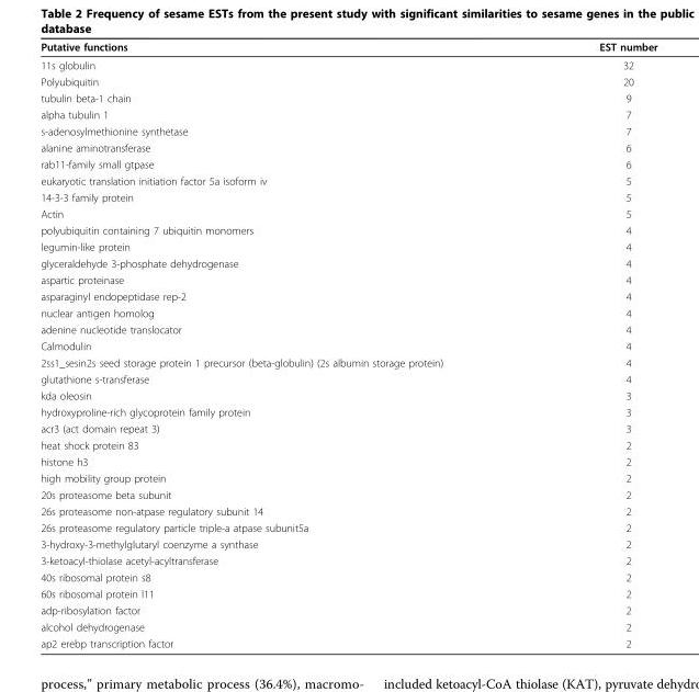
<table><thead><tr><td>Putative functions</td><td>EST number</td></tr></thead><tbody><tr><td>11s globulin</td><td>32</td></tr><tr><td>Polyubiquitin</td><td>20</td></tr><tr><td>tubulin beta-1 chain</td><td>9</td></tr><tr><td>alpha tubulin 1</td><td>7</td></tr><tr><td>s-adenosylmethionine synthetase</td><td>7</td></tr><tr><td>alanine aminotransferase</td><td>6</td></tr><tr><td>rab11-family small gtpase</td><td>6</td></tr><tr><td>eukaryotic translation initiation factor 5a isoform iv</td><td>5</td></tr><tr><td>14-3-3 family protein</td><td>5</td></tr><tr><td>Actin</td><td>5</td></tr><tr><td>polyubiquitin containing 7 ubiquitin monomers</td><td>4</td></tr><tr><td>legumin-like protein</td><td>4</td></tr><tr><td>glyceraldehyde 3-phosphate dehydrogenase</td><td>4</td></tr><tr><td>aspartic proteinase</td><td>4</td></tr><tr><td>asparaginyl endopeptidase rep-2</td><td>4</td></tr><tr><td>nuclear antigen homolog</td><td>4</td></tr><tr><td>adenine nucleotide translocator</td><td>4</td></tr><tr><td>Calmodulin</td><td>4</td></tr><tr><td>2ss1_sesin2s seed storage protein 1 precursor (beta-globulin) (2s albumin storage protein)</td><td>4</td></tr><tr><td>glutathione s-transferase</td><td>4</td></tr><tr><td>kda oleosin</td><td>3</td></tr><tr><td>hydroxyproline-rich glycoprotein family protein</td><td>3</td></tr><tr><td>acr3 (act domain repeat 3)</td><td>3</td></tr><tr><td>heat shock protein 83</td><td>2</td></tr><tr><td>histone h3</td><td>2</td></tr><tr><td>high mobility group protein</td><td>2</td></tr><tr><td>20s proteasome beta subunit</td><td>2</td></tr><tr><td>26s proteasome non-atpase regulatory subunit 14</td><td>2</td></tr><tr><td>26s proteasome regulatory particle triple-a atpase subunit5a</td><td>2</td></tr><tr><td>3-hydroxy-3-methylglutaryl coenzyme a synthase</td><td>2</td></tr><tr><td>3-ketoacyl-thiolase acetyl-acyltransferase</td><td>2</td></tr><tr><td>40s ribosomal protein s8</td><td>2</td></tr><tr><td>60s ribosomal protein l11</td><td>2</td></tr><tr><td>adp-ribosylation factor</td><td>2</td></tr><tr><td>alcohol dehydrogenase</td><td>2</td></tr><tr><td>ap2 erebp transcription factor</td><td>2</td></tr></tbody></table>